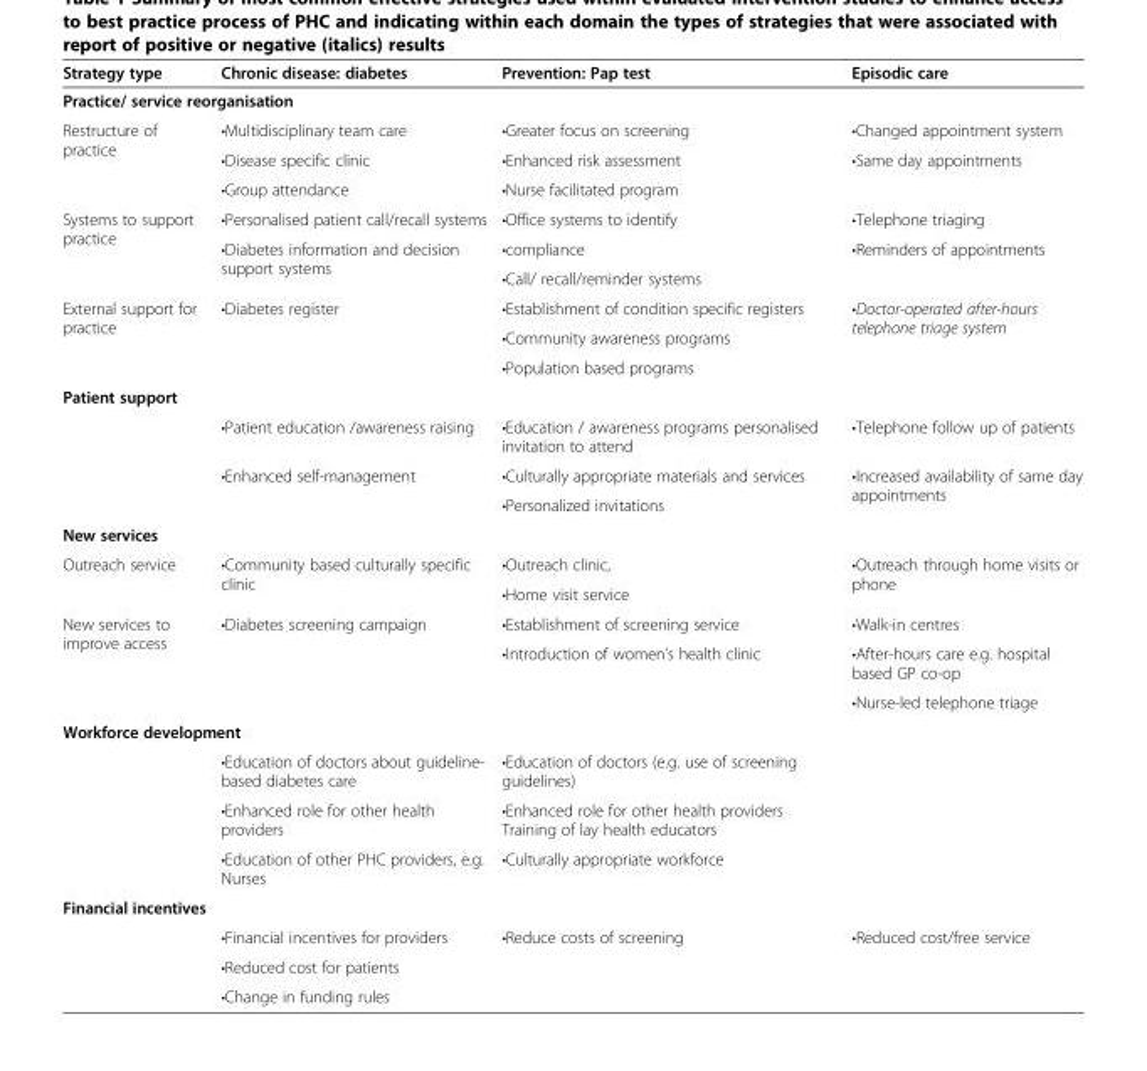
<table><thead><tr><td>Strategy type</td><td>Chronic disease: diabetes</td><td>Prevention: Pap test</td><td>Episodic care</td></tr></thead><tbody><tr><td colspan="4">Practice/ service reorganisation</td></tr><tr><td rowspan="3">Restructure of practice</td><td>•Multidisciplinary team care</td><td>•Greater focus on screening</td><td>•Changed appointment system</td></tr><tr><td>•Disease specific clinic</td><td>•Enhanced risk assessment</td><td rowspan="2">•Same day appointments</td></tr><tr><td>•Group attendance</td><td>•Nurse facilitated program</td></tr><tr><td rowspan="3">Systems to support practice</td><td>•Personalised patient call/recall systems</td><td>•Office systems to identify</td><td>•Telephone triaging</td></tr><tr><td rowspan="2">•Diabetes information and decision support systems</td><td>•compliance</td><td rowspan="2">•Reminders of appointments</td></tr><tr><td>•Call/ recall/reminder systems</td></tr><tr><td rowspan="3">External support for practice</td><td rowspan="3">•Diabetes register</td><td>•Establishment of condition specific registers</td><td rowspan="3">•Doctor-operated after-hours telephone triage system</td></tr><tr><td>•Community awareness programs</td></tr><tr><td>•Population based programs</td></tr><tr><td colspan="4">Patient support</td></tr><tr><td rowspan="3"></td><td>•Patient education /awareness raising</td><td>•Education / awareness programs personalised invitation to attend</td><td>•Telephone follow up of patients</td></tr><tr><td rowspan="2">•Enhanced self-management</td><td>•Culturally appropriate materials and services</td><td rowspan="2">•Increased availability of same day appointments</td></tr><tr><td>•Personalized invitations</td></tr><tr><td colspan="4">New services</td></tr><tr><td rowspan="2">Outreach service</td><td rowspan="2">•Community based culturally specific clinic</td><td>•Outreach clinic,</td><td rowspan="2">•Outreach through home visits or phone</td></tr><tr><td>•Home visit service</td></tr><tr><td rowspan="3">New services to improve access</td><td rowspan="3">•Diabetes screening campaign</td><td>•Establishment of screening service</td><td>•Walk-in centres</td></tr><tr><td rowspan="2">•Introduction of women’s health clinic</td><td>•After-hours care e.g. hospital based GP co-op</td></tr><tr><td>•Nurse-led telephone triage</td></tr><tr><td colspan="4">Workforce development</td></tr><tr><td rowspan="3"></td><td>•Education of doctors about guideline- based diabetes care</td><td>•Education of doctors (e.g. use of screening guidelines)</td><td rowspan="3"></td></tr><tr><td>•Enhanced role for other health providers</td><td>•Enhanced role for other health providers Training of lay health educators</td></tr><tr><td>•Education of other PHC providers, e.g. Nurses</td><td>•Culturally appropriate workforce</td></tr><tr><td colspan="4">Financial incentives</td></tr><tr><td rowspan="3"></td><td>•Financial incentives for providers</td><td rowspan="3">•Reduce costs of screening</td><td rowspan="3">•Reduced cost/free service</td></tr><tr><td>•Reduced cost for patients</td></tr><tr><td>•Change in funding rules</td></tr></tbody></table>